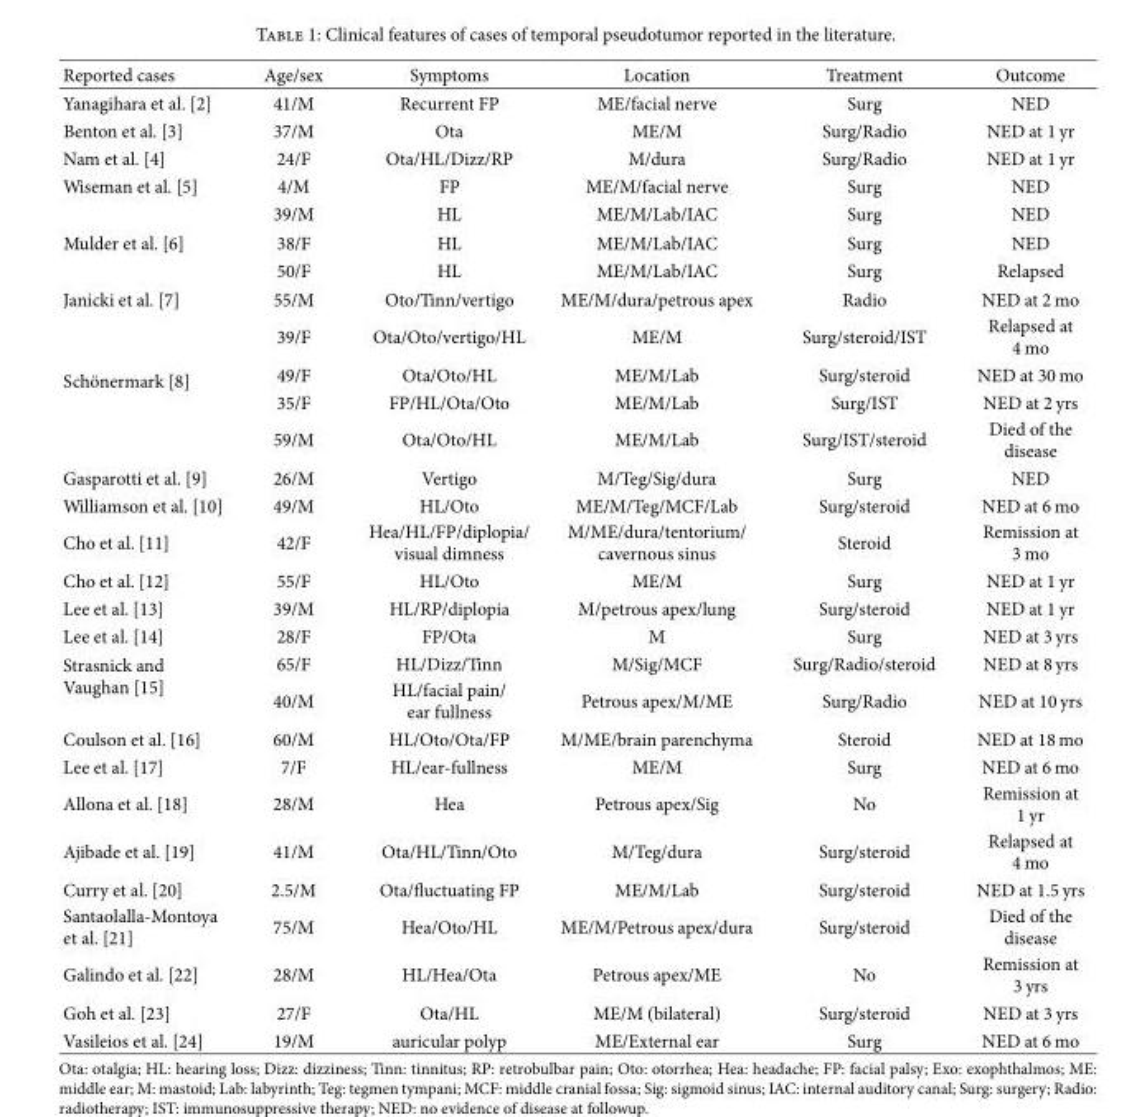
<table><thead><tr><td>Reported cases</td><td>Age/sex</td><td>Symptoms</td><td>Location</td><td>Treatment</td><td>Outcome</td></tr></thead><tbody><tr><td>Yanagihara et al. [2]</td><td>41/M</td><td>Recurrent FP</td><td>ME/facial nerve</td><td>Surg</td><td>NED</td></tr><tr><td>Benton et al. [3]</td><td>37/M</td><td>Ota</td><td>ME/M</td><td>Surg/Radio</td><td>NED at 1 yr</td></tr><tr><td>Nam et al. [4]</td><td>24/F</td><td>Ota/HL/Dizz/RP</td><td>M/dura</td><td>Surg/Radio</td><td>NED at 1 yr</td></tr><tr><td rowspan="2">Wiseman et al. [5]</td><td>4/M</td><td>FP</td><td>ME/M/facial nerve</td><td>Surg</td><td>NED</td></tr><tr><td>39/M</td><td>HL</td><td>ME/M/Lab/IAC</td><td>Surg</td><td>NED</td></tr><tr><td rowspan="2">Mulder et al. [6]</td><td>38/F</td><td>HL</td><td>ME/M/Lab/IAC</td><td>Surg</td><td>NED</td></tr><tr><td>50/F</td><td>HL</td><td>ME/M/Lab/IAC</td><td>Surg</td><td>Relapsed</td></tr><tr><td rowspan="2">Janicki et al. [7]</td><td>55/M</td><td>Oto/Tinn/vertigo</td><td>ME/M/dura/petrous apex</td><td>Radio</td><td>NED at 2 mo</td></tr><tr><td>39/F</td><td>Ota/Oto/vertigo/HL</td><td>ME/M</td><td>Surg/steroid/IST</td><td>Relapsed at 4 mo</td></tr><tr><td rowspan="3">Schönermark [8]</td><td>49/F</td><td>Ota/Oto/HL</td><td>ME/M/Lab</td><td>Surg/steroid</td><td>NED at 30 mo</td></tr><tr><td>35/F</td><td>FP/HL/Ota/Oto</td><td>ME/M/Lab</td><td>Surg/IST</td><td>NED at 2 yrs</td></tr><tr><td>59/M</td><td>Ota/Oto/HL</td><td>ME/M/Lab</td><td>Surg/IST/steroid</td><td>Died of the disease</td></tr><tr><td>Gasparotti et al. [9]</td><td>26/M</td><td>Vertigo</td><td>M/Teg/Sig/dura</td><td>Surg</td><td>NED</td></tr><tr><td>Williamson et al. [10]</td><td>49/M</td><td>HL/Oto</td><td>ME/M/Teg/MCF/Lab</td><td>Surg/steroid</td><td>NED at 6 mo</td></tr><tr><td>Cho et al. [11]</td><td>42/F</td><td>Hea/HL/FP/diplopia/ visual dimness</td><td>M/ME/dura/tentorium/ cavernous sinus</td><td>Steroid</td><td>Remission at 3 mo</td></tr><tr><td>Cho et al. [12]</td><td>55/F</td><td>HL/Oto</td><td>ME/M</td><td>Surg</td><td>NED at 1 yr</td></tr><tr><td>Lee et al. [13]</td><td>39/M</td><td>HL/RP/diplopia</td><td>M/petrous apex/lung</td><td>Surg/steroid</td><td>NED at 1 yr</td></tr><tr><td>Lee et al. [14]</td><td>28/F</td><td>FP/Ota</td><td>M</td><td>Surg</td><td>NED at 3 yrs</td></tr><tr><td rowspan="2">Strasnick and Vaughan [15]</td><td>65/F</td><td>HL/Dizz/Tinn</td><td>M/Sig/MCF</td><td>Surg/Radio/steroid</td><td>NED at 8 yrs</td></tr><tr><td>40/M</td><td>HL/facial pain/ ear fullness</td><td>Petrous apex/M/ME</td><td>Surg/Radio</td><td>NED at 10 yrs</td></tr><tr><td>Coulson et al. [16]</td><td>60/M</td><td>HL/Oto/Ota/FP</td><td>M/ME/brain parenchyma</td><td>Steroid</td><td>NED at 18 mo</td></tr><tr><td>Lee et al. [17]</td><td>7/F</td><td>HL/ear-fullness</td><td>ME/M</td><td>Surg</td><td>NED at 6 mo</td></tr><tr><td>Allona et al. [18]</td><td>28/M</td><td>Hea</td><td>Petrous apex/Sig</td><td>No</td><td>Remission at 1 yr</td></tr><tr><td>Ajibade et al. [19]</td><td>41/M</td><td>Ota/HL/Tinn/Oto</td><td>M/Teg/dura</td><td>Surg/steroid</td><td>Relapsed at 4 mo</td></tr><tr><td>Curry et al. [20]</td><td>2.5/M</td><td>Ota/�uctuating FP</td><td>ME/M/Lab</td><td>Surg/steroid</td><td>NED at 1.5 yrs</td></tr><tr><td>Santaolalla-Montoya et al. [21]</td><td>75/M</td><td>Hea/Oto/HL</td><td>ME/M/Petrous apex/dura</td><td>Surg/steroid</td><td>Died of the disease</td></tr><tr><td>Galindo et al. [22]</td><td>28/M</td><td>HL/Hea/Ota</td><td>Petrous apex/ME</td><td>No</td><td>Remission at 3 yrs</td></tr><tr><td>Goh et al. [23]</td><td>27/F</td><td>Ota/HL</td><td>ME/M (bilateral)</td><td>Surg/steroid</td><td>NED at 3 yrs</td></tr><tr><td>Vasileios et al. [24]</td><td>19/M</td><td>auricular polyp</td><td>ME/External ear</td><td>Surg</td><td>NED at 6 mo</td></tr></tbody></table>